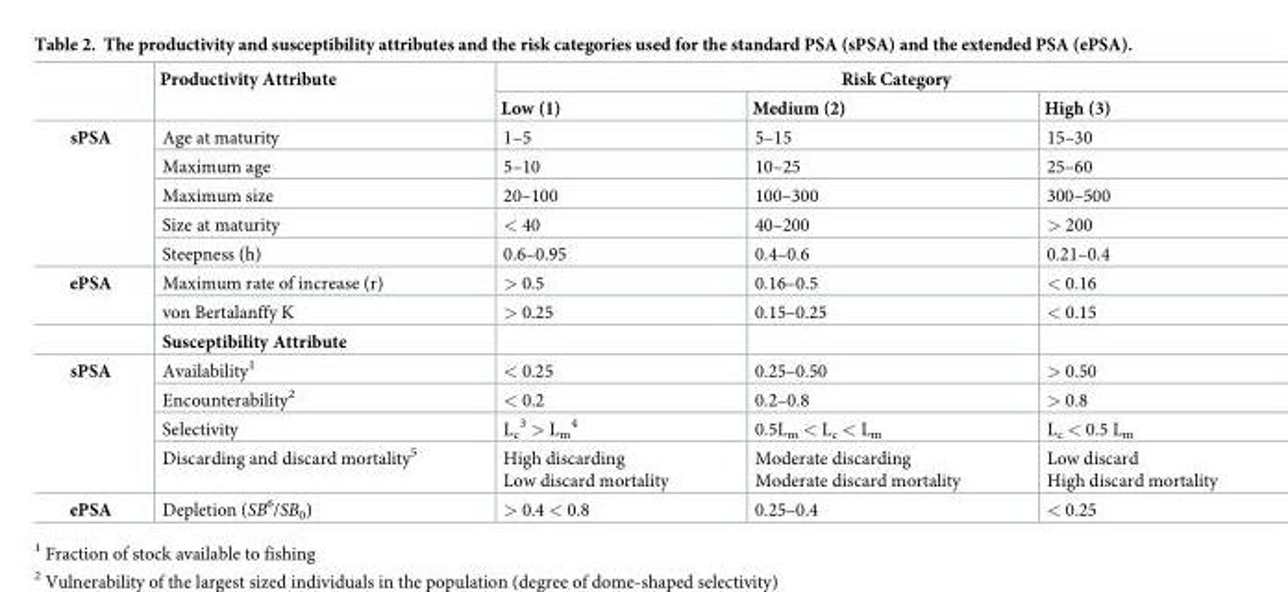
<table><thead><tr><td rowspan="2"></td><td rowspan="2">Productivity Attribute</td><td colspan="3">Risk Category</td></tr><tr><td>Low (1)</td><td>Medium (2)</td><td>High (3)</td></tr></thead><tbody><tr><td rowspan="5">sPSA</td><td>Age at maturity</td><td>1–5</td><td>5–15</td><td>15–30</td></tr><tr><td>Maximum age</td><td>5–10</td><td>10–25</td><td>25–60</td></tr><tr><td>Maximum size</td><td>20–100</td><td>100–300</td><td>300–500</td></tr><tr><td>Size at maturity</td><td>&lt; 40</td><td>40–200</td><td>&gt; 200</td></tr><tr><td>Steepness (h)</td><td>0.6–0.95</td><td>0.4–0.6</td><td>0.21–0.4</td></tr><tr><td rowspan="3">ePSA</td><td>Maximum rate of increase (r)</td><td>&gt; 0.5</td><td>0.16–0.5</td><td>&lt; 0.16</td></tr><tr><td>von Bertalanffy K</td><td>&gt; 0.25</td><td>0.15–0.25</td><td>&lt; 0.15</td></tr><tr><td>Susceptibility Attribute</td><td></td><td></td><td></td></tr><tr><td rowspan="4">sPSA</td><td>Availability<sup>1</sup></td><td>&lt; 0.25</td><td>0.25–0.50</td><td>&gt; 0.50</td></tr><tr><td>Encounterability<sup>2</sup></td><td>&lt; 0.2</td><td>0.2–0.8</td><td>&gt; 0.8</td></tr><tr><td>Selectivity</td><td>L<sub>c</sub> <sup>3</sup> &gt; L<sub>m</sub> <sup>4</sup></td><td>0.5L<sub>m</sub> &lt; L<sub>c</sub> &lt; L<sub>m</sub></td><td>L<sub>c</sub> &lt; 0.5 L<sub>m</sub></td></tr><tr><td>Discarding and discard mortality<sup>5</sup></td><td>High discarding Low discard mortality</td><td>Moderate discarding Moderate discard mortality</td><td>Low discard High discard mortality</td></tr><tr><td>ePSA</td><td>Depletion (SB<sup>6</sup>/SB<sub>0</sub>)</td><td>&gt; 0.4 &lt; 0.8</td><td>0.25–0.4</td><td>&lt; 0.25</td></tr></tbody></table>